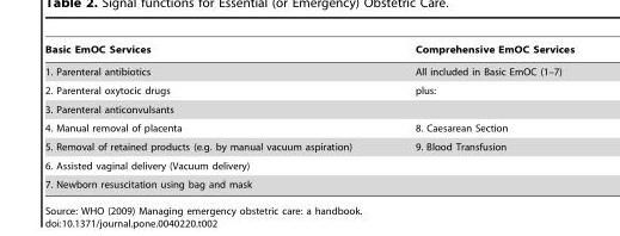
<table><thead><tr><td>Basic EmOC Services</td><td>Comprehensive EmOC Services</td></tr></thead><tbody><tr><td>1. Parenteral antibiotics</td><td>All included in Basic EmOC (1–7)</td></tr><tr><td>2. Parenteral oxytocic drugs</td><td>plus:</td></tr><tr><td colspan="2">3. Parenteral anticonvulsants</td></tr><tr><td>4. Manual removal of placenta</td><td>8. Caesarean Section</td></tr><tr><td>5. Removal of retained products (e.g. by manual vacuum aspiration)</td><td>9. Blood Transfusion</td></tr><tr><td colspan="2">6. Assisted vaginal delivery (Vacuum delivery)</td></tr><tr><td>7. Newborn resuscitation using bag and mask</td><td></td></tr></tbody></table>